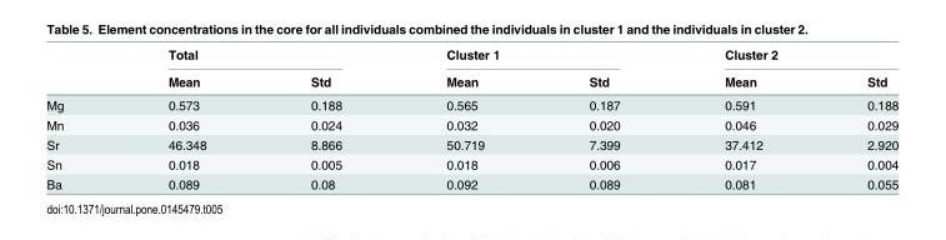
<table><thead><tr><td rowspan="2"></td><td colspan="2">Total</td><td colspan="2">Cluster 1</td><td colspan="2">Cluster 2</td></tr><tr><td>Mean</td><td>Std</td><td>Mean</td><td>Std</td><td>Mean</td><td>Std</td></tr></thead><tbody><tr><td>Mg</td><td>0.573</td><td>0.188</td><td>0.565</td><td>0.187</td><td>0.591</td><td>0.188</td></tr><tr><td>Mn</td><td>0.036</td><td>0.024</td><td>0.032</td><td>0.020</td><td>0.046</td><td>0.029</td></tr><tr><td>Sr</td><td>46.348</td><td>8.866</td><td>50.719</td><td>7.399</td><td>37.412</td><td>2.920</td></tr><tr><td>Sn</td><td>0.018</td><td>0.005</td><td>0.018</td><td>0.006</td><td>0.017</td><td>0.004</td></tr><tr><td>Ba</td><td>0.089</td><td>0.08</td><td>0.092</td><td>0.089</td><td>0.081</td><td>0.055</td></tr></tbody></table>